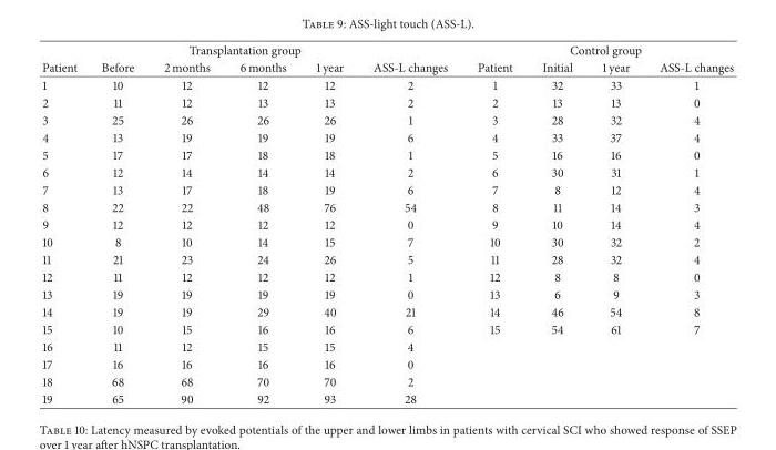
<table><thead><tr><td colspan="6">Transplantation group</td><td colspan="4">Control group</td></tr><tr><td>Patient</td><td>Before</td><td>2 months</td><td>6 months</td><td>1 year</td><td>ASS-L changes</td><td>Patient</td><td>Initial</td><td>1 year</td><td>ASS-L changes</td></tr></thead><tbody><tr><td>1</td><td>10</td><td>12</td><td>12</td><td>12</td><td>2</td><td>1</td><td>32</td><td>33</td><td>1</td></tr><tr><td>2</td><td>11</td><td>12</td><td>13</td><td>13</td><td>2</td><td>2</td><td>13</td><td>13</td><td>0</td></tr><tr><td>3</td><td>25</td><td>26</td><td>26</td><td>26</td><td>1</td><td>3</td><td>28</td><td>32</td><td>4</td></tr><tr><td>4</td><td>13</td><td>19</td><td>19</td><td>19</td><td>6</td><td>4</td><td>33</td><td>37</td><td>4</td></tr><tr><td>5</td><td>17</td><td>17</td><td>18</td><td>18</td><td>1</td><td>5</td><td>16</td><td>16</td><td>0</td></tr><tr><td>6</td><td>12</td><td>14</td><td>14</td><td>14</td><td>2</td><td>6</td><td>30</td><td>31</td><td>1</td></tr><tr><td>7</td><td>13</td><td>17</td><td>18</td><td>19</td><td>6</td><td>7</td><td>8</td><td>12</td><td>4</td></tr><tr><td>8</td><td>22</td><td>22</td><td>48</td><td>76</td><td>54</td><td>8</td><td>11</td><td>14</td><td>3</td></tr><tr><td>9</td><td>12</td><td>12</td><td>12</td><td>12</td><td>0</td><td>9</td><td>10</td><td>14</td><td>4</td></tr><tr><td>10</td><td>8</td><td>10</td><td>14</td><td>15</td><td>7</td><td>10</td><td>30</td><td>32</td><td>2</td></tr><tr><td>11</td><td>21</td><td>23</td><td>24</td><td>26</td><td>5</td><td>11</td><td>28</td><td>32</td><td>4</td></tr><tr><td>12</td><td>11</td><td>12</td><td>12</td><td>12</td><td>1</td><td>12</td><td>8</td><td>8</td><td>0</td></tr><tr><td>13</td><td>19</td><td>19</td><td>19</td><td>19</td><td>0</td><td>13</td><td>6</td><td>9</td><td>3</td></tr><tr><td>14</td><td>19</td><td>19</td><td>29</td><td>40</td><td>21</td><td>14</td><td>46</td><td>54</td><td>8</td></tr><tr><td>15</td><td>10</td><td>15</td><td>16</td><td>16</td><td>6</td><td>15</td><td>54</td><td>61</td><td>7</td></tr><tr><td>16</td><td>11</td><td>12</td><td>15</td><td>15</td><td>4</td><td></td><td></td><td></td><td></td></tr><tr><td>17</td><td>16</td><td>16</td><td>16</td><td>16</td><td>0</td><td></td><td></td><td></td><td></td></tr><tr><td>18</td><td>68</td><td>68</td><td>70</td><td>70</td><td>2</td><td></td><td></td><td></td><td></td></tr><tr><td>19</td><td>65</td><td>90</td><td>92</td><td>93</td><td>28</td><td></td><td></td><td></td><td></td></tr></tbody></table>